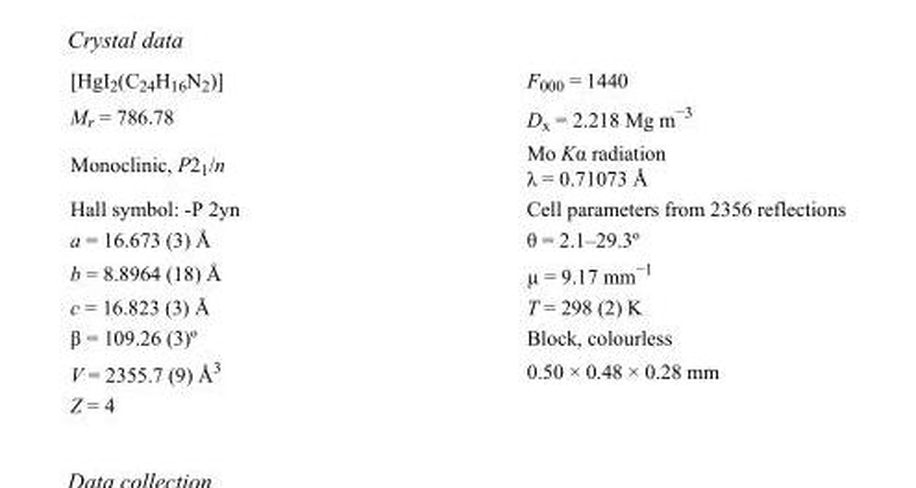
<table><tbody><tr><td>[HgI<sub>2</sub>(C<sub>24</sub>H<sub>16</sub>N<sub>2</sub>)]</td><td>F000 = 1440</td></tr><tr><td>M<sub>r</sub> = 786.78</td><td>D<sub>x</sub> = 2.218 Mg m<sup>−3</sup></td></tr><tr><td>Monoclinic, P2<sub>1</sub>/n</td><td>Mo Kα radiation λ = 0.71073 Å</td></tr><tr><td>Hall symbol: -P 2yn</td><td>Cell parameters from 2356 reflections</td></tr><tr><td>a = 16.673 (3) Å</td><td>θ = 2.1–29.3º</td></tr><tr><td>b = 8.8964 (18) Å</td><td>µ = 9.17 mm<sup>−1</sup></td></tr><tr><td>c = 16.823 (3) Å</td><td>T = 298 (2) K</td></tr><tr><td>β = 109.26 (3)º</td><td>Block, colourless</td></tr><tr><td>V = 2355.7 (9) Å<sup>3</sup></td><td>0.50 × 0.48 × 0.28 mm</td></tr><tr><td>Z = 4</td><td></td></tr></tbody></table>